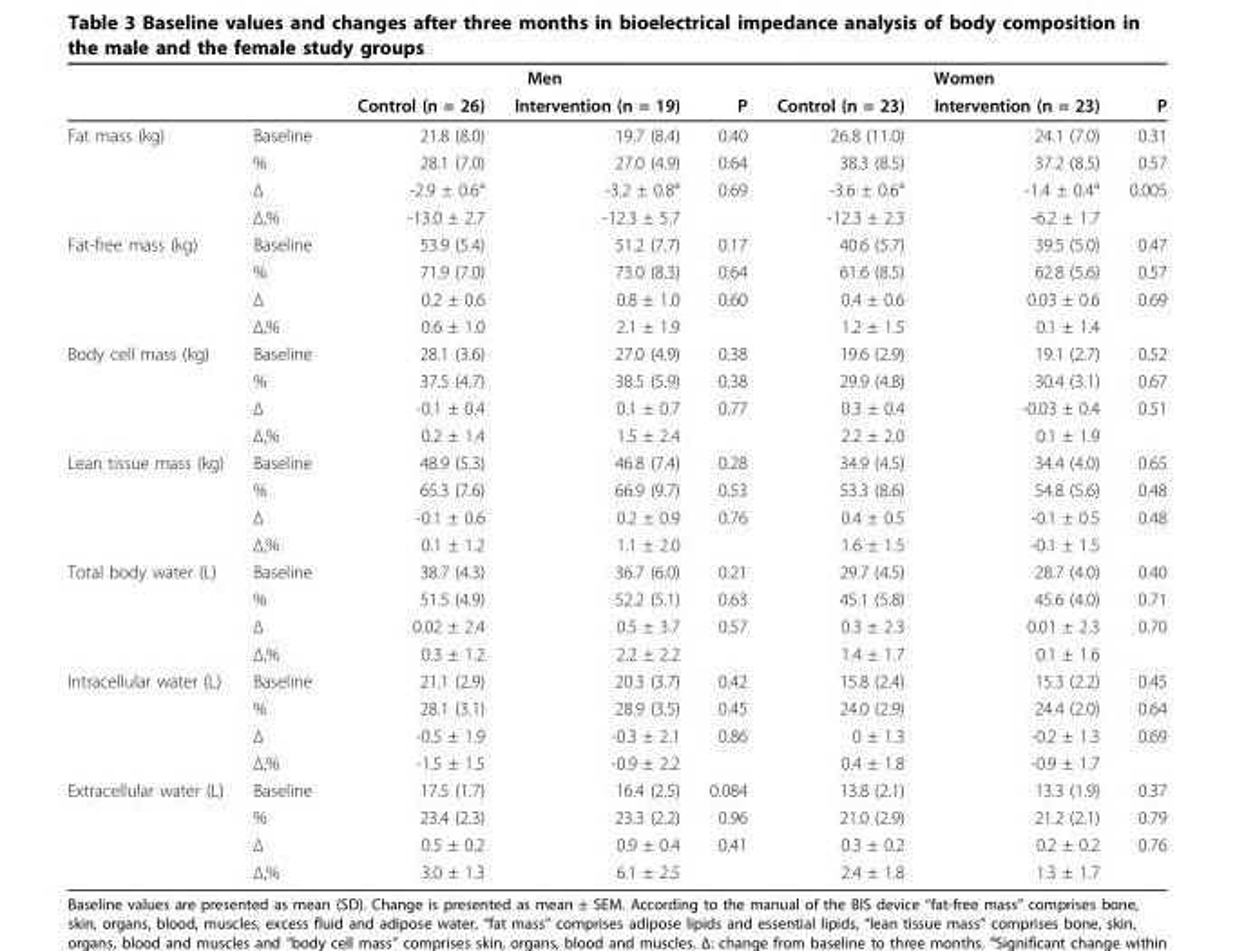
<table><thead><tr><td rowspan="2"></td><td rowspan="2"></td><td colspan="3">Men</td><td colspan="3">Women</td></tr><tr><td>Control (n = 26)</td><td>Intervention (n = 19)</td><td>P</td><td>Control (n = 23)</td><td>Intervention (n = 23)</td><td>P</td></tr></thead><tbody><tr><td rowspan="4">Fat mass (kg)</td><td>Baseline</td><td>21.8 (8.0)</td><td>19.7 (8.4)</td><td>0.40</td><td>26.8 (11.0)</td><td>24.1 (7.0)</td><td>0.31</td></tr><tr><td>%</td><td>28.1 (7.0)</td><td>27.0 (4.9)</td><td>0.64</td><td>38.3 (8.5)</td><td>37.2 (8.5)</td><td>0.57</td></tr><tr><td>Δ</td><td>-2.9 ± 0.6<sup>a</sup></td><td>-3.2 ± 0.8<sup>a</sup></td><td>0.69</td><td>-3.6 ± 0.6<sup>a</sup></td><td>-1.4 ± 0.4<sup>a</sup></td><td>0.005</td></tr><tr><td>Δ,%</td><td>-13.0 ± 2.7</td><td>-12.3 ± 5.7</td><td></td><td>-12.3 ± 2.3</td><td>-6.2 ± 1.7</td><td></td></tr><tr><td rowspan="4">Fat-free mass (kg)</td><td>Baseline</td><td>53.9 (5.4)</td><td>51.2 (7.7)</td><td>0.17</td><td>40.6 (5.7)</td><td>39.5 (5.0)</td><td>0.47</td></tr><tr><td>%</td><td>71.9 (7.0)</td><td>73.0 (8.3)</td><td>0.64</td><td>61.6 (8.5)</td><td>62.8 (5.6)</td><td>0.57</td></tr><tr><td>Δ</td><td>0.2 ± 0.6</td><td>0.8 ± 1.0</td><td>0.60</td><td>0.4 ± 0.6</td><td>0.03 ± 0.6</td><td>0.69</td></tr><tr><td>Δ,%</td><td>0.6 ± 1.0</td><td>2.1 ± 1.9</td><td></td><td>1.2 ± 1.5</td><td>0.1 ± 1.4</td><td></td></tr><tr><td rowspan="4">Body cell mass (kg)</td><td>Baseline</td><td>28.1 (3.6)</td><td>27.0 (4.9)</td><td>0.38</td><td>19.6 (2.9)</td><td>19.1 (2.7)</td><td>0.52</td></tr><tr><td>%</td><td>37.5 (4.7)</td><td>38.5 (5.9)</td><td>0.38</td><td>29.9 (4.8)</td><td>30.4 (3.1)</td><td>0.67</td></tr><tr><td>Δ</td><td>-0.1 ± 0.4</td><td>0.1 ± 0.7</td><td>0.77</td><td>0.3 ± 0.4</td><td>-0.03 ± 0.4</td><td>0.51</td></tr><tr><td>Δ,%</td><td>0.2 ± 1.4</td><td>1.5 ± 2.4</td><td></td><td>2.2 ± 2.0</td><td>0.1 ± 1.9</td><td></td></tr><tr><td rowspan="4">Lean tissue mass (kg)</td><td>Baseline</td><td>48.9 (5.3)</td><td>46.8 (7.4)</td><td>0.28</td><td>34.9 (4.5)</td><td>34.4 (4.0)</td><td>0.65</td></tr><tr><td>%</td><td>65.3 (7.6)</td><td>66.9 (9.7)</td><td>0.53</td><td>53.3 (8.6)</td><td>54.8 (5.6)</td><td>0.48</td></tr><tr><td>Δ</td><td>-0.1 ± 0.6</td><td>0.2 ± 0.9</td><td>0.76</td><td>0.4 ± 0.5</td><td>-0.1 ± 0.5</td><td>0.48</td></tr><tr><td>Δ,%</td><td>0.1 ± 1.2</td><td>1.1 ± 2.0</td><td></td><td>1.6 ± 1.5</td><td>-0.1 ± 1.5</td><td></td></tr><tr><td rowspan="4">Total body water (L)</td><td>Baseline</td><td>38.7 (4.3)</td><td>36.7 (6.0)</td><td>0.21</td><td>29.7 (4.5)</td><td>28.7 (4.0)</td><td>0.40</td></tr><tr><td>%</td><td>51.5 (4.9)</td><td>52.2 (5.1)</td><td>0.63</td><td>45.1 (5.8)</td><td>45.6 (4.0)</td><td>0.71</td></tr><tr><td>Δ</td><td>0.02 ± 2.4</td><td>0.5 ± 3.7</td><td>0.57</td><td>0.3 ± 2.3</td><td>0.01 ± 2.3</td><td>0.70</td></tr><tr><td>Δ,%</td><td>0.3 ± 1.2</td><td>2.2 ± 2.2</td><td></td><td>1.4 ± 1.7</td><td>0.1 ± 1.6</td><td></td></tr><tr><td rowspan="4">Intracellular water (L)</td><td>Baseline</td><td>21.1 (2.9)</td><td>20.3 (3.7)</td><td>0.42</td><td>15.8 (2.4)</td><td>15.3 (2.2)</td><td>0.45</td></tr><tr><td>%</td><td>28.1 (3.1)</td><td>28.9 (3.5)</td><td>0.45</td><td>24.0 (2.9)</td><td>24.4 (2.0)</td><td>0.64</td></tr><tr><td>Δ</td><td>-0.5 ± 1.9</td><td>-0.3 ± 2.1</td><td>0.86</td><td>0 ± 1.3</td><td>-0.2 ± 1.3</td><td>0.69</td></tr><tr><td>Δ,%</td><td>-1.5 ± 1.5</td><td>-0.9 ± 2.2</td><td></td><td>0.4 ± 1.8</td><td>-0.9 ± 1.7</td><td></td></tr><tr><td rowspan="4">Extracellular water (L)</td><td>Baseline</td><td>17.5 (1.7)</td><td>16.4 (2.5)</td><td>0.084</td><td>13.8 (2.1)</td><td>13.3 (1.9)</td><td>0.37</td></tr><tr><td>%</td><td>23.4 (2.3)</td><td>23.3 (2.2)</td><td>0.96</td><td>21.0 (2.9)</td><td>21.2 (2.1)</td><td>0.79</td></tr><tr><td>Δ</td><td>0.5 ± 0.2</td><td>0.9 ± 0.4</td><td>0.41</td><td>0.3 ± 0.2</td><td>0.2 ± 0.2</td><td>0.76</td></tr><tr><td>Δ,%</td><td>3.0 ± 1.3</td><td>6.1 ± 2.5</td><td></td><td>2.4 ± 1.8</td><td>1.3 ± 1.7</td><td></td></tr></tbody></table>